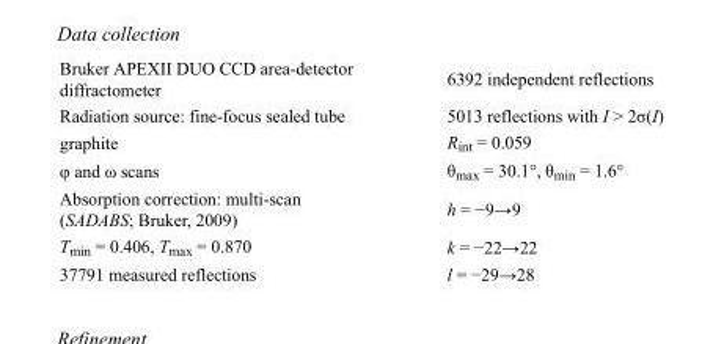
<table><tbody><tr><td>Bruker APEXII DUO CCD area-detector diffractometer</td><td>6392 independent reflections</td></tr><tr><td>Radiation source: fine-focus sealed tube</td><td>5013 reflections with I &gt; 2σ(I)</td></tr><tr><td>graphite</td><td>R<sub>int</sub> = 0.059</td></tr><tr><td>φ and ω scans</td><td>θ<sub>max</sub> = 30.1°, θ<sub>min</sub> = 1.6°</td></tr><tr><td>Absorption correction: multi-scan (SADABS; Bruker, 2009)</td><td>h = −9→9</td></tr><tr><td>T<sub>min</sub> = 0.406, T<sub>max</sub> = 0.870</td><td>k = −22→22</td></tr><tr><td>37791 measured reflections</td><td>l = −29→28</td></tr></tbody></table>